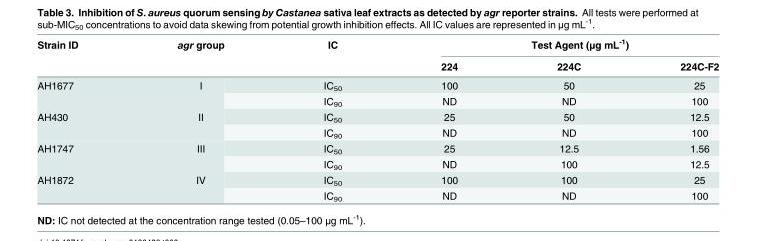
<table><thead><tr><td rowspan="2">Strain ID</td><td rowspan="2">agr group</td><td rowspan="2">IC</td><td colspan="3">Test Agent (μg mL<sup>-1</sup>)</td></tr><tr><td>224</td><td>224C</td><td>224C-F2</td></tr></thead><tbody><tr><td rowspan="2">AH1677</td><td rowspan="2">I</td><td>IC<sub>50</sub></td><td>100</td><td>50</td><td>25</td></tr><tr><td>IC<sub>90</sub></td><td>ND</td><td>ND</td><td>100</td></tr><tr><td rowspan="2">AH430</td><td rowspan="2">II</td><td>IC<sub>50</sub></td><td>25</td><td>50</td><td>12.5</td></tr><tr><td>IC<sub>90</sub></td><td>ND</td><td>ND</td><td>100</td></tr><tr><td rowspan="2">AH1747</td><td rowspan="2">III</td><td>IC<sub>50</sub></td><td>25</td><td>12.5</td><td>1.56</td></tr><tr><td>IC<sub>90</sub></td><td>ND</td><td>100</td><td>12.5</td></tr><tr><td rowspan="2">AH1872</td><td rowspan="2">IV</td><td>IC<sub>50</sub></td><td>100</td><td>100</td><td>25</td></tr><tr><td>IC<sub>90</sub></td><td>ND</td><td>ND</td><td>100</td></tr></tbody></table>